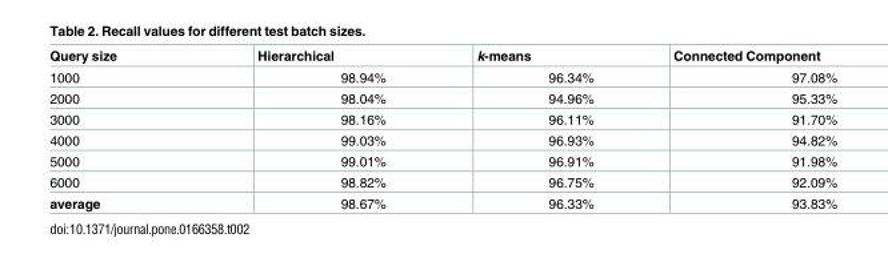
<table><thead><tr><td>Query size</td><td>Hierarchical</td><td>k-means</td><td>Connected Component</td></tr></thead><tbody><tr><td>1000</td><td>98.94%</td><td>96.34%</td><td>97.08%</td></tr><tr><td>2000</td><td>98.04%</td><td>94.96%</td><td>95.33%</td></tr><tr><td>3000</td><td>98.16%</td><td>96.11%</td><td>91.70%</td></tr><tr><td>4000</td><td>99.03%</td><td>96.93%</td><td>94.82%</td></tr><tr><td>5000</td><td>99.01%</td><td>96.91%</td><td>91.98%</td></tr><tr><td>6000</td><td>98.82%</td><td>96.75%</td><td>92.09%</td></tr><tr><td>average</td><td>98.67%</td><td>96.33%</td><td>93.83%</td></tr></tbody></table>